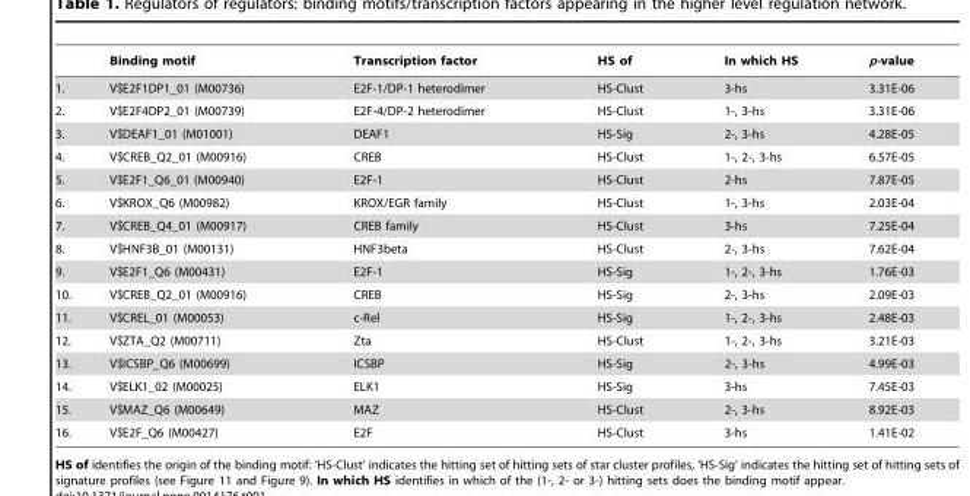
<table><thead><tr><td></td><td>Binding motif</td><td>Transcription factor</td><td>HS of</td><td>In which HS</td><td>p-value</td></tr></thead><tbody><tr><td>1.</td><td>V$E2F1DP1_01 (M00736)</td><td>E2F-1/DP-1 heterodimer</td><td>HS-Clust</td><td>3-hs</td><td>3.31E-06</td></tr><tr><td>2.</td><td>V$E2F4DP2_01 (M00739)</td><td>E2F-4/DP-2 heterodimer</td><td>HS-Clust</td><td>1-, 3-hs</td><td>3.31E-06</td></tr><tr><td>3.</td><td>V$DEAF1_01 (M01001)</td><td>DEAF1</td><td>HS-Sig</td><td>2-, 3-hs</td><td>4.28E-05</td></tr><tr><td>4.</td><td>V$CREB_Q2_01 (M00916)</td><td>CREB</td><td>HS-Clust</td><td>1-, 2-, 3-hs</td><td>6.57E-05</td></tr><tr><td>5.</td><td>V$E2F1_Q6_01 (M00940)</td><td>E2F-1</td><td>HS-Clust</td><td>2-hs</td><td>7.87E-05</td></tr><tr><td>6.</td><td>V$KROX_Q6 (M00982)</td><td>KROX/EGR family</td><td>HS-Clust</td><td>1-, 3-hs</td><td>2.03E-04</td></tr><tr><td>7.</td><td>V$CREB_Q4_01 (M00917)</td><td>CREB family</td><td>HS-Clust</td><td>3-hs</td><td>7.25E-04</td></tr><tr><td>8.</td><td>V$HNF3B_01 (M00131)</td><td>HNF3beta</td><td>HS-Clust</td><td>2-, 3-hs</td><td>7.62E-04</td></tr><tr><td>9.</td><td>V$E2F1_Q6 (M00431)</td><td>E2F-1</td><td>HS-Sig</td><td>1-, 2-, 3-hs</td><td>1.76E-03</td></tr><tr><td>10.</td><td>V$CREB_Q2_01 (M00916)</td><td>CREB</td><td>HS-Sig</td><td>2-, 3-hs</td><td>2.09E-03</td></tr><tr><td>11.</td><td>V$CREL_01 (M00053)</td><td>c-Rel</td><td>HS-Sig</td><td>1-, 2-, 3-hs</td><td>2.48E-03</td></tr><tr><td>12.</td><td>V$ZTA_Q2 (M00711)</td><td>Zta</td><td>HS-Clust</td><td>1-, 2-, 3-hs</td><td>3.21E-03</td></tr><tr><td>13.</td><td>V$ICSBP_Q6 (M00699)</td><td>ICSBP</td><td>HS-Sig</td><td>2-, 3-hs</td><td>4.99E-03</td></tr><tr><td>14.</td><td>V$ELK1_02 (M00025)</td><td>ELK1</td><td>HS-Sig</td><td>3-hs</td><td>7.45E-03</td></tr><tr><td>15.</td><td>V$MAZ_Q6 (M00649)</td><td>MAZ</td><td>HS-Clust</td><td>2-, 3-hs</td><td>8.92E-03</td></tr><tr><td>16.</td><td>V$E2F_Q6 (M00427)</td><td>E2F</td><td>HS-Clust</td><td>3-hs</td><td>1.41E-02</td></tr></tbody></table>